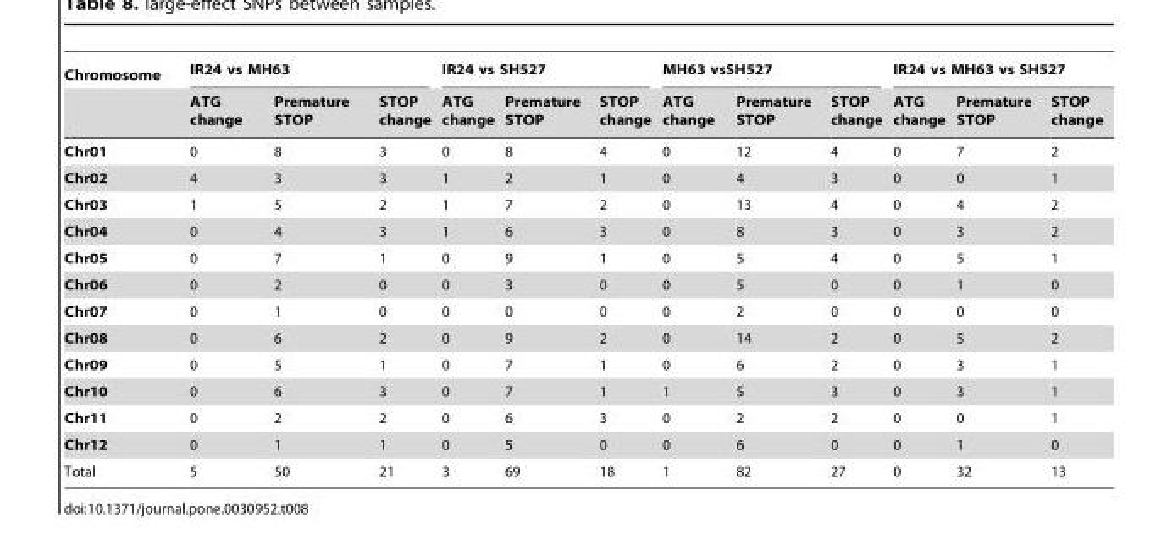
<table><thead><tr><td rowspan="2">Chromosome</td><td colspan="3">IR24 vs MH63</td><td colspan="3">IR24 vs SH527</td><td colspan="3">MH63 vsSH527</td><td colspan="3">IR24 vs MH63 vs SH527</td></tr><tr><td>ATG change</td><td>Premature STOP</td><td>STOP change</td><td>ATG change</td><td>Premature STOP</td><td>STOP change</td><td>ATG change</td><td>Premature STOP</td><td>STOP change</td><td>ATG change</td><td>Premature STOP</td><td>STOP change</td></tr></thead><tbody><tr><td>Chr01</td><td>0</td><td>8</td><td>3</td><td>0</td><td>8</td><td>4</td><td>0</td><td>12</td><td>4</td><td>0</td><td>7</td><td>2</td></tr><tr><td>Chr02</td><td>4</td><td>3</td><td>3</td><td>1</td><td>2</td><td>1</td><td>0</td><td>4</td><td>3</td><td>0</td><td>0</td><td>1</td></tr><tr><td>Chr03</td><td>1</td><td>5</td><td>2</td><td>1</td><td>7</td><td>2</td><td>0</td><td>13</td><td>4</td><td>0</td><td>4</td><td>2</td></tr><tr><td>Chr04</td><td>0</td><td>4</td><td>3</td><td>1</td><td>6</td><td>3</td><td>0</td><td>8</td><td>3</td><td>0</td><td>3</td><td>2</td></tr><tr><td>Chr05</td><td>0</td><td>7</td><td>1</td><td>0</td><td>9</td><td>1</td><td>0</td><td>5</td><td>4</td><td>0</td><td>5</td><td>1</td></tr><tr><td>Chr06</td><td>0</td><td>2</td><td>0</td><td>0</td><td>3</td><td>0</td><td>0</td><td>5</td><td>0</td><td>0</td><td>1</td><td>0</td></tr><tr><td>Chr07</td><td>0</td><td>1</td><td>0</td><td>0</td><td>0</td><td>0</td><td>0</td><td>2</td><td>0</td><td>0</td><td>0</td><td>0</td></tr><tr><td>Chr08</td><td>0</td><td>6</td><td>2</td><td>0</td><td>9</td><td>2</td><td>0</td><td>14</td><td>2</td><td>0</td><td>5</td><td>2</td></tr><tr><td>Chr09</td><td>0</td><td>5</td><td>1</td><td>0</td><td>7</td><td>1</td><td>0</td><td>6</td><td>2</td><td>0</td><td>3</td><td>1</td></tr><tr><td>Chr10</td><td>0</td><td>6</td><td>3</td><td>0</td><td>7</td><td>1</td><td>1</td><td>5</td><td>3</td><td>0</td><td>3</td><td>1</td></tr><tr><td>Chr11</td><td>0</td><td>2</td><td>2</td><td>0</td><td>6</td><td>3</td><td>0</td><td>2</td><td>2</td><td>0</td><td>0</td><td>1</td></tr><tr><td>Chr12</td><td>0</td><td>1</td><td>1</td><td>0</td><td>5</td><td>0</td><td>0</td><td>6</td><td>0</td><td>0</td><td>1</td><td>0</td></tr><tr><td>Total</td><td>5</td><td>50</td><td>21</td><td>3</td><td>69</td><td>18</td><td>1</td><td>82</td><td>27</td><td>0</td><td>32</td><td>13</td></tr></tbody></table>